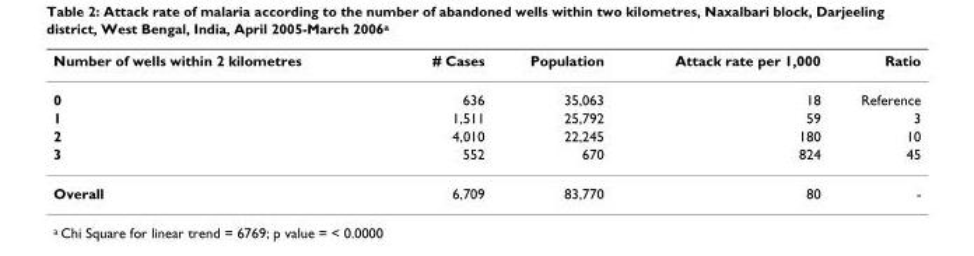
<table><thead><tr><td>Number of wells within 2 kilometres</td><td># Cases</td><td>Population</td><td>Attack rate per 1,000</td><td>Ratio</td></tr></thead><tbody><tr><td>0</td><td>636</td><td>35,063</td><td>18</td><td>Reference</td></tr><tr><td>1</td><td>1,511</td><td>25,792</td><td>59</td><td>3</td></tr><tr><td>2</td><td>4,010</td><td>22,245</td><td>180</td><td>10</td></tr><tr><td>3</td><td>552</td><td>670</td><td>824</td><td>45</td></tr><tr><td>Overall</td><td>6,709</td><td>83,770</td><td>80</td><td>-</td></tr></tbody></table>